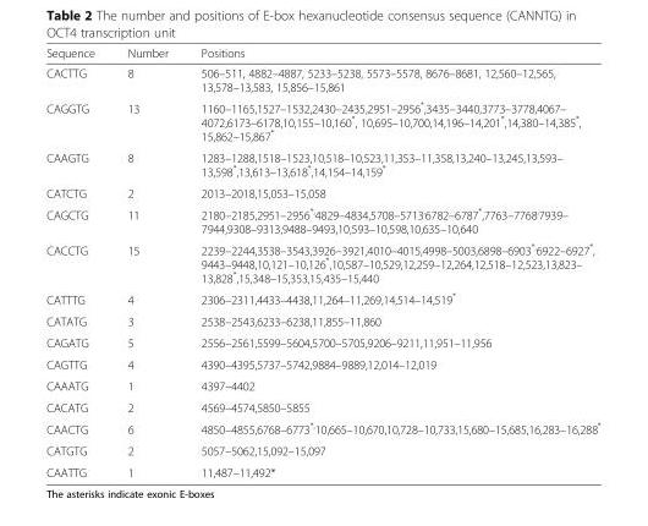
<table><thead><tr><td>Sequence</td><td>Number</td><td>Positions</td></tr></thead><tbody><tr><td>CACTTG</td><td>8</td><td>506–511, 4882–4887, 5233–5238, 5573–5578, 8676–8681, 12,560–12,565, 13,578–13,583, 15,856–15,861</td></tr><tr><td>CAGGTG</td><td>13</td><td>1160–1165,1527–1532,2430–2435,2951–2956*,3435–3440,3773–3778,4067– 4072,6173–6178,10,155–10,160*, 10,695–10,700,14,196–14,201*,14,380–14,385*, 15,862–15,867*</td></tr><tr><td>CAAGTG</td><td>8</td><td>1283–1288,1518–1523,10,518–10,523,11,353–11,358,13,240–13,245,13,593– 13,598*,13,613–13,618*,14,154–14,159*</td></tr><tr><td>CATCTG</td><td>2</td><td>2013–2018,15,053–15,058</td></tr><tr><td>CAGCTG</td><td>11</td><td>2180–2185,2951–2956<sup>*,</sup>4829–4834,5708–5713<sup>,</sup>6782–6787*,7763–7768<sup>,</sup>7939– 7944,9308–9313,9488–9493,10,593–10,598,10,635–10,640</td></tr><tr><td>CACCTG</td><td>15</td><td>2239–2244,3538–3543,3926–3921,4010–4015,4998–5003,6898–6903<sup>*,</sup>6922–6927*, 9443–9448,10,121–10,126*,10,587–10,529,12,259–12,264,12,518–12,523,13,823– 13,828*,15,348–15,353,15,435–15,440</td></tr><tr><td>CATTTG</td><td>4</td><td>2306–2311,4433–4438,11,264–11,269,14,514–14,519*</td></tr><tr><td>CATATG</td><td>3</td><td>2538–2543,6233–6238,11,855–11,860</td></tr><tr><td>CAGATG</td><td>5</td><td>2556–2561,5599–5604,5700–5705,9206–9211,11,951–11,956</td></tr><tr><td>CAGTTG</td><td>4</td><td>4390–4395,5737–5742,9884–9889,12,014–12,019</td></tr><tr><td>CAAATG</td><td>1</td><td>4397–4402</td></tr><tr><td>CACATG</td><td>2</td><td>4569–4574,5850–5855</td></tr><tr><td>CAACTG</td><td>6</td><td>4850–4855,6768–6773<sup>*,</sup>10,665–10,670,10,728–10,733,15,680–15,685,16,283–16,288*</td></tr><tr><td>CATGTG</td><td>2</td><td>5057–5062,15,092–15,097</td></tr><tr><td>CAATTG</td><td>1</td><td>11,487–11,492*</td></tr></tbody></table>